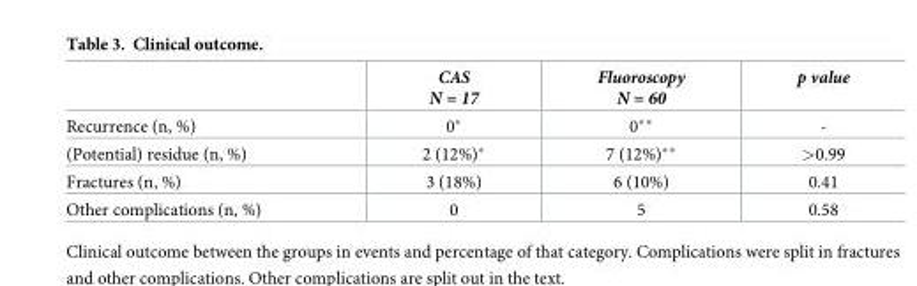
<table><thead><tr><td></td><td>CAS N = 17</td><td>Fluoroscopy N = 60</td><td>p value</td></tr></thead><tbody><tr><td>Recurrence (n, %)</td><td>0*</td><td>0**</td><td>-</td></tr><tr><td>(Potential) residue (n, %)</td><td>2 (12%)*</td><td>7 (12%)**</td><td>&gt;0.99</td></tr><tr><td>Fractures (n, %)</td><td>3 (18%)</td><td>6 (10%)</td><td>0.41</td></tr><tr><td>Other complications (n, %)</td><td>0</td><td>5</td><td>0.58</td></tr></tbody></table>